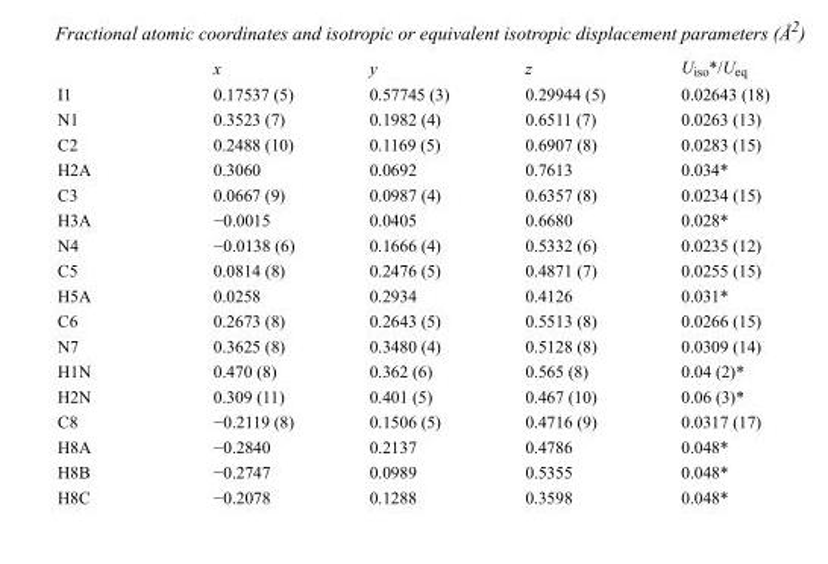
<table><thead><tr><td></td><td>x</td><td>y</td><td>z</td><td>U<sub>iso</sub>*/U<sub>eq</sub></td></tr></thead><tbody><tr><td>I1</td><td>0.17537 (5)</td><td>0.57745 (3)</td><td>0.29944 (5)</td><td>0.02643 (18)</td></tr><tr><td>N1</td><td>0.3523 (7)</td><td>0.1982 (4)</td><td>0.6511 (7)</td><td>0.0263 (13)</td></tr><tr><td>C2</td><td>0.2488 (10)</td><td>0.1169 (5)</td><td>0.6907 (8)</td><td>0.0283 (15)</td></tr><tr><td>H2A</td><td>0.3060</td><td>0.0692</td><td>0.7613</td><td>0.034*</td></tr><tr><td>C3</td><td>0.0667 (9)</td><td>0.0987 (4)</td><td>0.6357 (8)</td><td>0.0234 (15)</td></tr><tr><td>H3A</td><td>−0.0015</td><td>0.0405</td><td>0.6680</td><td>0.028*</td></tr><tr><td>N4</td><td>−0.0138 (6)</td><td>0.1666 (4)</td><td>0.5332 (6)</td><td>0.0235 (12)</td></tr><tr><td>C5</td><td>0.0814 (8)</td><td>0.2476 (5)</td><td>0.4871 (7)</td><td>0.0255 (15)</td></tr><tr><td>H5A</td><td>0.0258</td><td>0.2934</td><td>0.4126</td><td>0.031*</td></tr><tr><td>C6</td><td>0.2673 (8)</td><td>0.2643 (5)</td><td>0.5513 (8)</td><td>0.0266 (15)</td></tr><tr><td>N7</td><td>0.3625 (8)</td><td>0.3480 (4)</td><td>0.5128 (8)</td><td>0.0309 (14)</td></tr><tr><td>H1N</td><td>0.470 (8)</td><td>0.362 (6)</td><td>0.565 (8)</td><td>0.04 (2)*</td></tr><tr><td>H2N</td><td>0.309 (11)</td><td>0.401 (5)</td><td>0.467 (10)</td><td>0.06 (3)*</td></tr><tr><td>C8</td><td>−0.2119 (8)</td><td>0.1506 (5)</td><td>0.4716 (9)</td><td>0.0317 (17)</td></tr><tr><td>H8A</td><td>−0.2840</td><td>0.2137</td><td>0.4786</td><td>0.048*</td></tr><tr><td>H8B</td><td>−0.2747</td><td>0.0989</td><td>0.5355</td><td>0.048*</td></tr><tr><td>H8C</td><td>−0.2078</td><td>0.1288</td><td>0.3598</td><td>0.048*</td></tr></tbody></table>